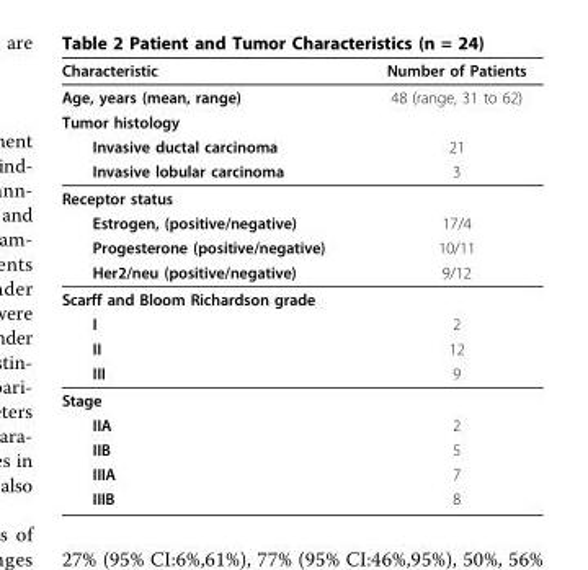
<table><thead><tr><td>Characteristic</td><td>Number of Patients</td></tr></thead><tbody><tr><td>Age, years (mean, range)</td><td>48 (range, 31 to 62)</td></tr><tr><td colspan="2">Tumor histology</td></tr><tr><td>Invasive ductal carcinoma</td><td>21</td></tr><tr><td>Invasive lobular carcinoma</td><td>3</td></tr><tr><td colspan="2">Receptor status</td></tr><tr><td>Estrogen, (positive/negative)</td><td>17/4</td></tr><tr><td>Progesterone (positive/negative)</td><td>10/11</td></tr><tr><td>Her2/neu (positive/negative)</td><td>9/12</td></tr><tr><td colspan="2">Scarff and Bloom Richardson grade</td></tr><tr><td>I</td><td>2</td></tr><tr><td>II</td><td>12</td></tr><tr><td>III</td><td>9</td></tr><tr><td colspan="2">Stage</td></tr><tr><td>IIA</td><td>2</td></tr><tr><td>IIB</td><td>5</td></tr><tr><td>IIIA</td><td>7</td></tr><tr><td>IIIB</td><td>8</td></tr></tbody></table>